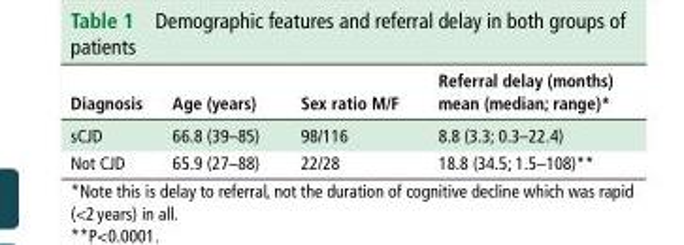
<table><thead><tr><td>diagnosis</td><td>Age (years)</td><td>sex ratio M/F</td><td>referral delay (months) mean (median; range)*</td></tr></thead><tbody><tr><td>sCJD</td><td>66.8 (39–85)</td><td>98/116</td><td>8.8 (3.3; 0.3–22.4)</td></tr><tr><td>Not CJD</td><td>65.9 (27–88)</td><td>22/28</td><td>18.8 (34.5; 1.5–108)**</td></tr></tbody></table>